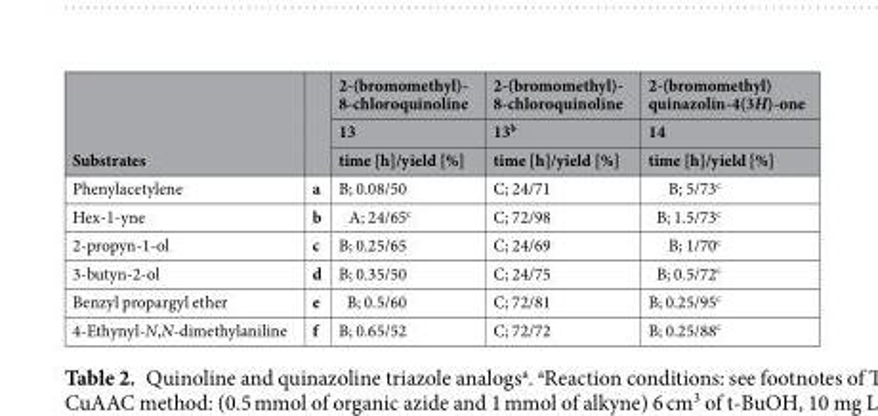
<table><thead><tr><td rowspan="3">Substrates</td><td rowspan="3"></td><td rowspan="3">2-(bromomethyl)- 8-chloroquinoline 13 time [h]/yield [%]</td><td rowspan="3">2-(bromomethyl)- 8-chloroquinoline 13<sup>b</sup> time [h]/yield [%]</td><td rowspan="3">2-(bromomethyl) quinazolin-4(3H)-one 14 time [h]/yield [%]</td></tr><tr></tr><tr></tr></thead><tbody><tr><td>Phenylacetylene</td><td>a</td><td>B; 0.08/50</td><td>C; 24/71</td><td>B; 5/73<sup>c</sup></td></tr><tr><td>Hex-1-yne</td><td>b</td><td>A; 24/65<sup>c</sup></td><td>C; 72/98</td><td>B; 1.5/73<sup>c</sup></td></tr><tr><td>2-propyn-1-ol</td><td>c</td><td>B; 0.25/65</td><td>C; 24/69</td><td>B; 1/70<sup>c</sup></td></tr><tr><td>3-butyn-2-ol</td><td>d</td><td>B; 0.35/50</td><td>C; 24/75</td><td>B; 0.5/72<sup>c</sup></td></tr><tr><td>Benzyl propargyl ether</td><td>e</td><td>B; 0.5/60</td><td>C; 72/81</td><td>B; 0.25/95<sup>c</sup></td></tr><tr><td>4-Ethynyl-N,N-dimethylaniline</td><td>f</td><td>B; 0.65/52</td><td>C; 72/72</td><td>B; 0.25/88<sup>c</sup></td></tr></tbody></table>